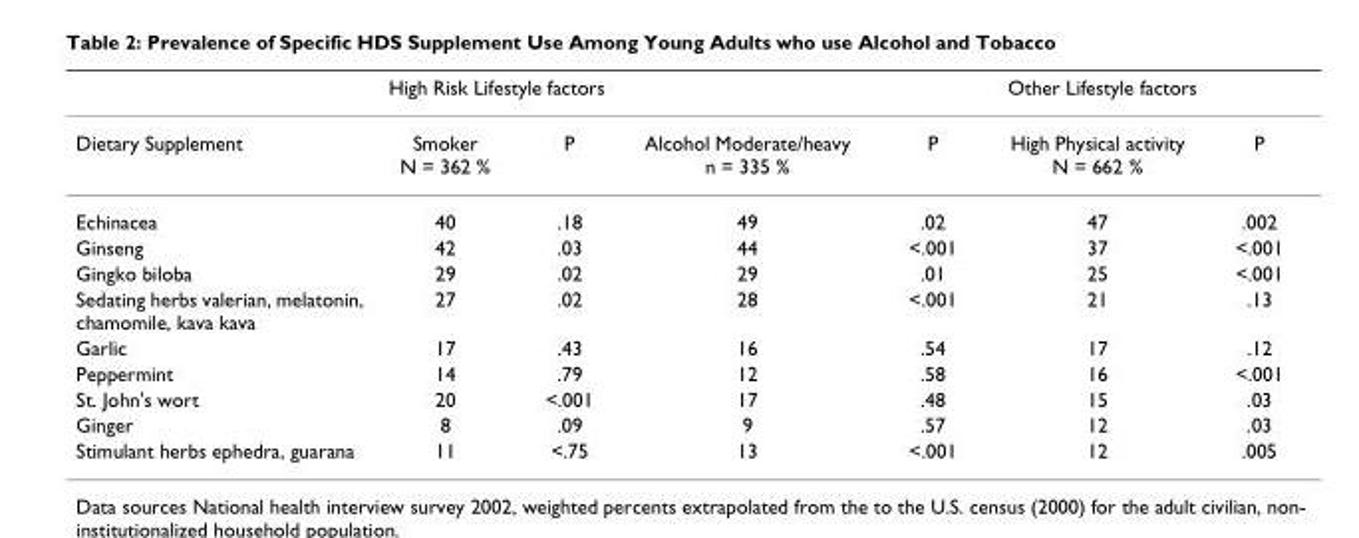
<table><thead><tr><td rowspan="2">Dietary Supplement</td><td colspan="4">High Risk Lifestyle factors</td><td colspan="2">Other Lifestyle factors</td></tr><tr><td>Smoker N = 362 %</td><td>P</td><td>Alcohol Moderate/heavy n = 335 %</td><td>P</td><td>High Physical activity N = 662 %</td><td>P</td></tr></thead><tbody><tr><td>Echinacea</td><td>40</td><td>.18</td><td>49</td><td>.02</td><td>47</td><td>.002</td></tr><tr><td>Ginseng</td><td>42</td><td>.03</td><td>44</td><td>&lt;.001</td><td>37</td><td>&lt;.001</td></tr><tr><td>Gingko biloba</td><td>29</td><td>.02</td><td>29</td><td>.01</td><td>25</td><td>&lt;.001</td></tr><tr><td>Sedating herbs valerian, melatonin, chamomile, kava kava</td><td>27</td><td>.02</td><td>28</td><td>&lt;.001</td><td>21</td><td>.13</td></tr><tr><td>Garlic</td><td>17</td><td>.43</td><td>16</td><td>.54</td><td>17</td><td>.12</td></tr><tr><td>Peppermint</td><td>14</td><td>.79</td><td>12</td><td>.58</td><td>16</td><td>&lt;.001</td></tr><tr><td>St. John&#x27;s wort</td><td>20</td><td>&lt;.001</td><td>17</td><td>.48</td><td>15</td><td>.03</td></tr><tr><td>Ginger</td><td>8</td><td>.09</td><td>9</td><td>.57</td><td>12</td><td>.03</td></tr><tr><td>Stimulant herbs ephedra, guarana</td><td>11</td><td>&lt;.75</td><td>13</td><td>&lt;.001</td><td>12</td><td>.005</td></tr></tbody></table>